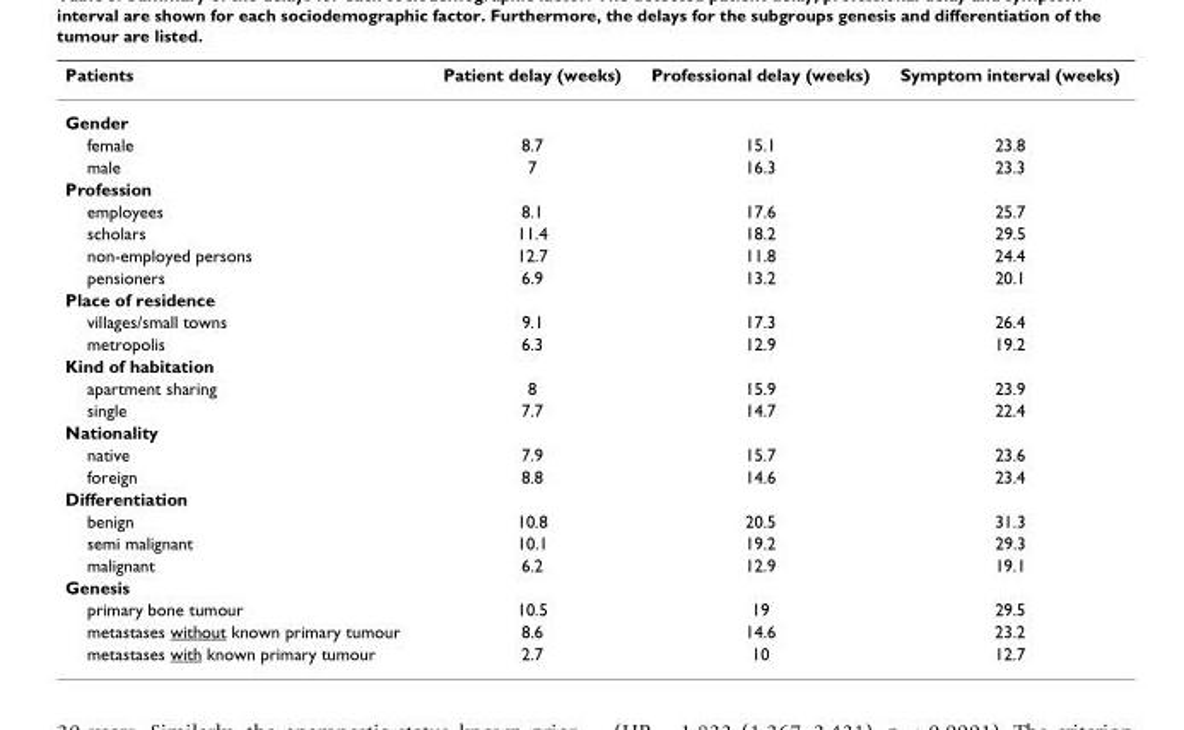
<table><thead><tr><td>Patients</td><td>Patient delay (weeks)</td><td>Professional delay (weeks)</td><td>Symptom interval (weeks)</td></tr></thead><tbody><tr><td colspan="4">Gender</td></tr><tr><td>female</td><td>8.7</td><td>15.1</td><td>23.8</td></tr><tr><td>male</td><td>7</td><td>16.3</td><td>23.3</td></tr><tr><td colspan="4">Profession</td></tr><tr><td>employees</td><td>8.1</td><td>17.6</td><td>25.7</td></tr><tr><td>scholars</td><td>11.4</td><td>18.2</td><td>29.5</td></tr><tr><td>non-employed persons</td><td>12.7</td><td>11.8</td><td>24.4</td></tr><tr><td>pensioners</td><td>6.9</td><td>13.2</td><td>20.1</td></tr><tr><td colspan="4">Place of residence</td></tr><tr><td>villages/small towns</td><td>9.1</td><td>17.3</td><td>26.4</td></tr><tr><td>metropolis</td><td>6.3</td><td>12.9</td><td>19.2</td></tr><tr><td colspan="4">Kind of habitation</td></tr><tr><td>apartment sharing</td><td>8</td><td>15.9</td><td>23.9</td></tr><tr><td>single</td><td>7.7</td><td>14.7</td><td>22.4</td></tr><tr><td colspan="4">Nationality</td></tr><tr><td>native</td><td>7.9</td><td>15.7</td><td>23.6</td></tr><tr><td>foreign</td><td>8.8</td><td>14.6</td><td>23.4</td></tr><tr><td colspan="4">Differentiation</td></tr><tr><td>benign</td><td>10.8</td><td>20.5</td><td>31.3</td></tr><tr><td>semi malignant</td><td>10.1</td><td>19.2</td><td>29.3</td></tr><tr><td>malignant</td><td>6.2</td><td>12.9</td><td>19.1</td></tr><tr><td colspan="4">Genesis</td></tr><tr><td>primary bone tumour</td><td>10.5</td><td>19</td><td>29.5</td></tr><tr><td>metastases without known primary tumour</td><td>8.6</td><td>14.6</td><td>23.2</td></tr><tr><td>metastases with known primary tumour</td><td>2.7</td><td>10</td><td>12.7</td></tr></tbody></table>